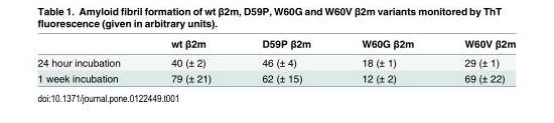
<table><thead><tr><td></td><td>wt β2m</td><td>D59P β2m</td><td>W60G β2m</td><td>W60V β2m</td></tr></thead><tbody><tr><td>24 hour incubation</td><td>40 (± 2)</td><td>46 (± 4)</td><td>18 (± 1)</td><td>29 (± 1)</td></tr><tr><td>1 week incubation</td><td>79 (± 21)</td><td>62 (± 15)</td><td>12 (± 2)</td><td>69 (± 22)</td></tr></tbody></table>